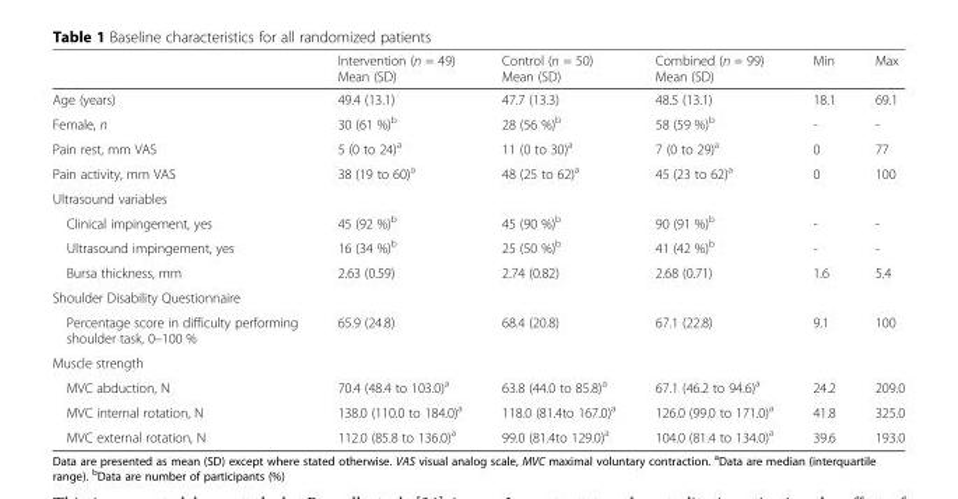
<table><thead><tr><td></td><td>Intervention (n = 49) Mean (SD)</td><td>Control (n = 50) Mean (SD)</td><td>Combined (n = 99) Mean (SD)</td><td>Min</td><td>Max</td></tr></thead><tbody><tr><td>Age (years)</td><td>49.4 (13.1)</td><td>47.7 (13.3)</td><td>48.5 (13.1)</td><td>18.1</td><td>69.1</td></tr><tr><td>Female, n</td><td>30 (61 %)<sup>b</sup></td><td>28 (56 %)<sup>b</sup></td><td>58 (59 %)<sup>b</sup></td><td>-</td><td>-</td></tr><tr><td>Pain rest, mm VAS</td><td>5 (0 to 24)<sup>a</sup></td><td>11 (0 to 30)<sup>a</sup></td><td>7 (0 to 29)<sup>a</sup></td><td>0</td><td>77</td></tr><tr><td>Pain activity, mm VAS</td><td>38 (19 to 60)<sup>a</sup></td><td>48 (25 to 62)<sup>a</sup></td><td>45 (23 to 62)<sup>a</sup></td><td>0</td><td>100</td></tr><tr><td colspan="6">Ultrasound variables</td></tr><tr><td>Clinical impingement, yes</td><td>45 (92 %)<sup>b</sup></td><td>45 (90 %)<sup>b</sup></td><td>90 (91 %)<sup>b</sup></td><td>-</td><td>-</td></tr><tr><td>Ultrasound impingement, yes</td><td>16 (34 %)<sup>b</sup></td><td>25 (50 %)<sup>b</sup></td><td>41 (42 %)<sup>b</sup></td><td>-</td><td>-</td></tr><tr><td>Bursa thickness, mm</td><td>2.63 (0.59)</td><td>2.74 (0.82)</td><td>2.68 (0.71)</td><td>1.6</td><td>5.4</td></tr><tr><td colspan="6">Shoulder Disability Questionnaire</td></tr><tr><td>Percentage score in difficulty performing shoulder task, 0–100 %</td><td>65.9 (24.8)</td><td>68.4 (20.8)</td><td>67.1 (22.8)</td><td>9.1</td><td>100</td></tr><tr><td colspan="6">Muscle strength</td></tr><tr><td>MVC abduction, N</td><td>70.4 (48.4 to 103.0)<sup>a</sup></td><td>63.8 (44.0 to 85.8)<sup>a</sup></td><td>67.1 (46.2 to 94.6)<sup>a</sup></td><td>24.2</td><td>209.0</td></tr><tr><td>MVC internal rotation, N</td><td>138.0 (110.0 to 184.0)<sup>a</sup></td><td>118.0 (81.4to 167.0)<sup>a</sup></td><td>126.0 (99.0 to 171.0)<sup>a</sup></td><td>41.8</td><td>325.0</td></tr><tr><td>MVC external rotation, N</td><td>112.0 (85.8 to 136.0)<sup>a</sup></td><td>99.0 (81.4to 129.0)<sup>a</sup></td><td>104.0 (81.4 to 134.0)<sup>a</sup></td><td>39.6</td><td>193.0</td></tr></tbody></table>